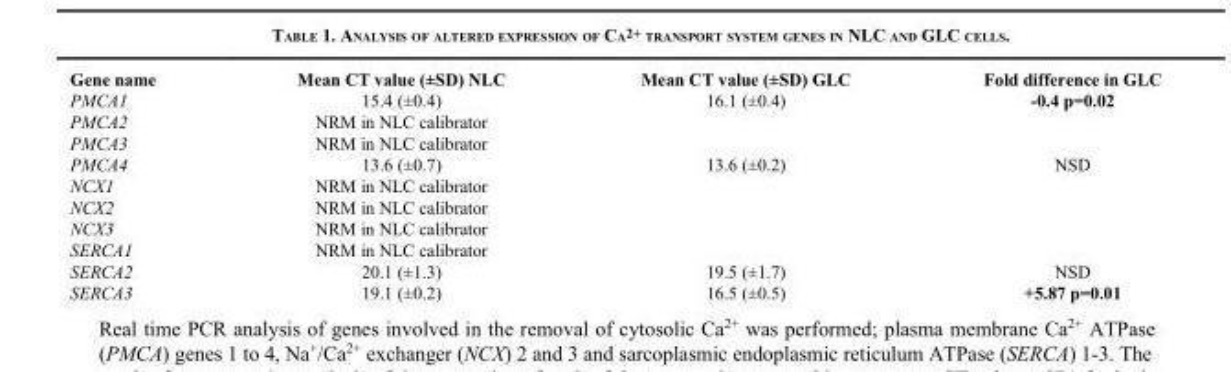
<table><thead><tr><td>Gene name</td><td>Mean CT value (±SD) NLC</td><td>Mean CT value (±SD) GLC</td><td>Fold difference in GLC</td></tr></thead><tbody><tr><td>PMCA1</td><td>15.4 (±0.4)</td><td>16.1 (±0.4)</td><td>-0.4 p=0.02</td></tr><tr><td>PMCA2</td><td>NRM in NLC calibrator</td><td></td><td></td></tr><tr><td>PMCA3</td><td>NRM in NLC calibrator</td><td></td><td></td></tr><tr><td>PMCA4</td><td>13.6 (±0.7)</td><td>13.6 (±0.2)</td><td>NSD</td></tr><tr><td>NCX1</td><td>NRM in NLC calibrator</td><td></td><td></td></tr><tr><td>NCX2</td><td>NRM in NLC calibrator</td><td></td><td></td></tr><tr><td>NCX3</td><td>NRM in NLC calibrator</td><td></td><td></td></tr><tr><td>SERCA1</td><td>NRM in NLC calibrator</td><td></td><td></td></tr><tr><td>SERCA2</td><td>20.1 (±1.3)</td><td>19.5 (±1.7)</td><td>NSD</td></tr><tr><td>SERCA3</td><td>19.1 (±0.2)</td><td>16.5 (±0.5)</td><td>+5.87 p=0.01</td></tr></tbody></table>